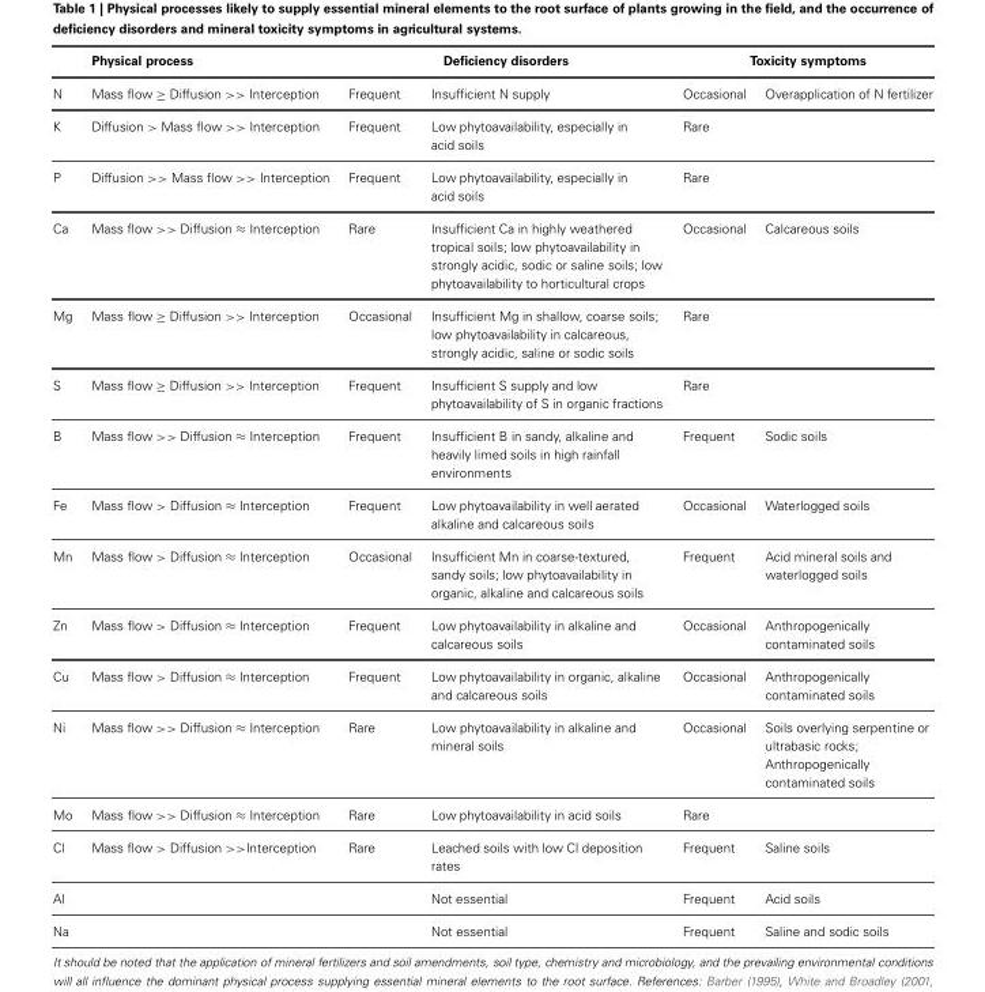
<table><thead><tr><td rowspan="2">N</td><td rowspan="2">Physical process Mass flow ≥ Diffusion &gt;&gt; Interception</td><td colspan="2">Deficiency disorders</td><td colspan="2">Toxicity symptoms</td></tr><tr><td>Frequent</td><td>Insufficient N supply</td><td>Occasional</td><td>Overapplication of N fertilizer</td></tr></thead><tbody><tr><td>K</td><td>Diffusion &gt; Mass flow &gt;&gt; Interception</td><td>Frequent</td><td>Low phytoavailability, especially in acid soils</td><td>Rare</td><td></td></tr><tr><td>P</td><td>Diffusion &gt;&gt; Mass flow &gt;&gt; Interception</td><td>Frequent</td><td>Low phytoavailability, especially in acid soils</td><td>Rare</td><td></td></tr><tr><td>Ca</td><td>Mass flow &gt;&gt; Diffusion ≈ Interception</td><td>Rare</td><td>Insufficient Ca in highly weathered tropical soils; low phytoavailability in strongly acidic, sodic or saline soils; low phytoavailability to horticultural crops</td><td>Occasional</td><td>Calcareous soils</td></tr><tr><td>Mg</td><td>Mass flow ≥ Diffusion &gt;&gt; Interception</td><td>Occasional</td><td>Insufficient Mg in shallow, coarse soils; low phytoavailability in calcareous, strongly acidic, saline or sodic soils</td><td>Rare</td><td></td></tr><tr><td>S</td><td>Mass flow ≥ Diffusion &gt;&gt; Interception</td><td>Frequent</td><td>Insufficient S supply and low phytoavailability of S in organic fractions</td><td>Rare</td><td></td></tr><tr><td>B</td><td>Mass flow &gt;&gt; Diffusion ≈ Interception</td><td>Frequent</td><td>Insufficient B in sandy, alkaline and heavily limed soils in high rainfall environments</td><td>Frequent</td><td>Sodic soils</td></tr><tr><td>Fe</td><td>Mass flow &gt; Diffusion ≈ Interception</td><td>Frequent</td><td>Low phytoavailability in well aerated alkaline and calcareous soils</td><td>Occasional</td><td>Waterlogged soils</td></tr><tr><td>Mn</td><td>Mass flow &gt; Diffusion ≈ Interception</td><td>Occasional</td><td>Insufficient Mn in coarse-textured, sandy soils; low phytoavailability in organic, alkaline and calcareous soils</td><td>Frequent</td><td>Acid mineral soils and waterlogged soils</td></tr><tr><td>Zn</td><td>Mass flow &gt; Diffusion ≈ Interception</td><td>Frequent</td><td>Low phytoavailability in alkaline and calcareous soils</td><td>Occasional</td><td>Anthropogenically contaminated soils</td></tr><tr><td>Cu</td><td>Mass flow &gt; Diffusion ≈ Interception</td><td>Frequent</td><td>Low phytoavailability in organic, alkaline and calcareous soils</td><td>Occasional</td><td>Anthropogenically contaminated soils</td></tr><tr><td>Ni</td><td>Mass flow &gt;&gt; Diffusion ≈ Interception</td><td>Rare</td><td>Low phytoavailability in alkaline and mineral soils</td><td>Occasional</td><td>Soils overlying serpentine or ultrabasic rocks; Anthropogenically contaminated soils</td></tr><tr><td>Mo</td><td>Mass flow &gt;&gt; Diffusion ≈ Interception</td><td>Rare</td><td>Low phytoavailability in acid soils</td><td>Rare</td><td></td></tr><tr><td>Cl</td><td>Mass flow &gt; Diffusion &gt;&gt;Interception</td><td>Rare</td><td>Leached soils with low Cl deposition rates</td><td>Frequent</td><td>Saline soils</td></tr><tr><td>Al</td><td></td><td></td><td>Not essential</td><td>Frequent</td><td>Acid soils</td></tr><tr><td>Na</td><td></td><td></td><td>Not essential</td><td>Frequent</td><td>Saline and sodic soils</td></tr></tbody></table>